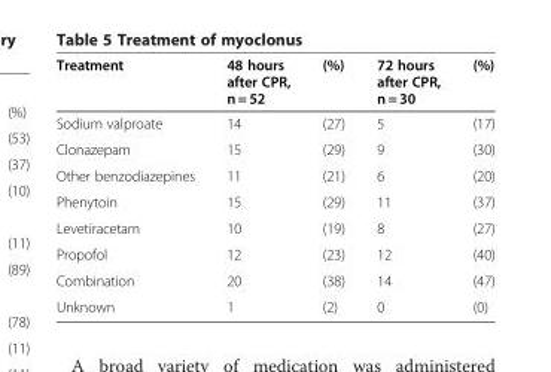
<table><thead><tr><td>Treatment</td><td>48 hours after CPR, n = 52</td><td>(%)</td><td>72 hours after CPR, n = 30</td><td>(%)</td></tr></thead><tbody><tr><td>Sodium valproate</td><td>14</td><td>(27)</td><td>5</td><td>(17)</td></tr><tr><td>Clonazepam</td><td>15</td><td>(29)</td><td>9</td><td>(30)</td></tr><tr><td>Other benzodiazepines</td><td>11</td><td>(21)</td><td>6</td><td>(20)</td></tr><tr><td>Phenytoin</td><td>15</td><td>(29)</td><td>11</td><td>(37)</td></tr><tr><td>Levetiracetam</td><td>10</td><td>(19)</td><td>8</td><td>(27)</td></tr><tr><td>Propofol</td><td>12</td><td>(23)</td><td>12</td><td>(40)</td></tr><tr><td>Combination</td><td>20</td><td>(38)</td><td>14</td><td>(47)</td></tr><tr><td>Unknown</td><td>1</td><td>(2)</td><td>0</td><td>(0)</td></tr></tbody></table>